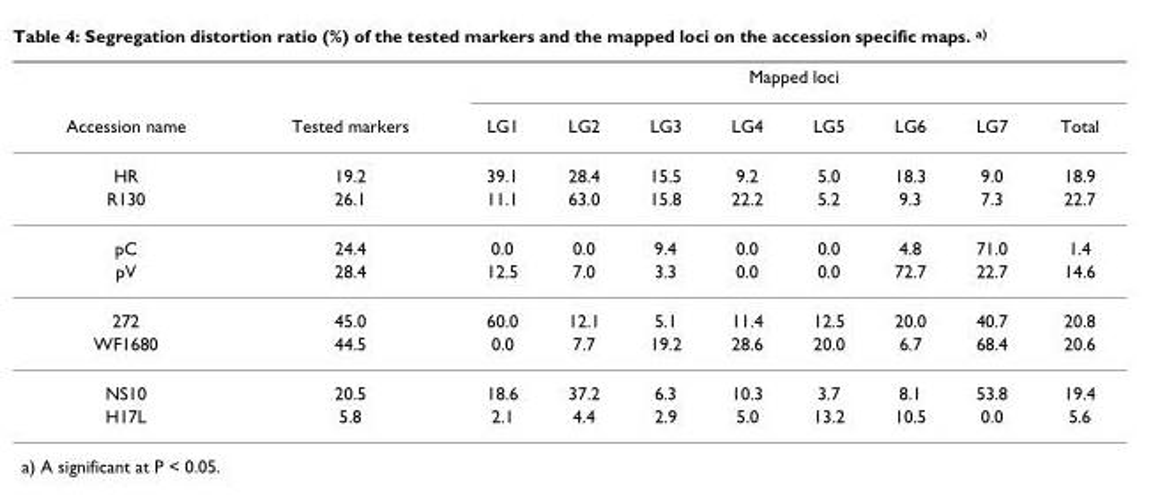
<table><thead><tr><td rowspan="2">Accession name</td><td rowspan="2">Tested markers</td><td colspan="8">Mapped loci</td></tr><tr><td>LG1</td><td>LG2</td><td>LG3</td><td>LG4</td><td>LG5</td><td>LG6</td><td>LG7</td><td>Total</td></tr></thead><tbody><tr><td>HR</td><td>19.2</td><td>39.1</td><td>28.4</td><td>15.5</td><td>9.2</td><td>5.0</td><td>18.3</td><td>9.0</td><td>18.9</td></tr><tr><td>R130</td><td>26.1</td><td>11.1</td><td>63.0</td><td>15.8</td><td>22.2</td><td>5.2</td><td>9.3</td><td>7.3</td><td>22.7</td></tr><tr><td>pC</td><td>24.4</td><td>0.0</td><td>0.0</td><td>9.4</td><td>0.0</td><td>0.0</td><td>4.8</td><td>71.0</td><td>1.4</td></tr><tr><td>pV</td><td>28.4</td><td>12.5</td><td>7.0</td><td>3.3</td><td>0.0</td><td>0.0</td><td>72.7</td><td>22.7</td><td>14.6</td></tr><tr><td>272</td><td>45.0</td><td>60.0</td><td>12.1</td><td>5.1</td><td>11.4</td><td>12.5</td><td>20.0</td><td>40.7</td><td>20.8</td></tr><tr><td>WF1680</td><td>44.5</td><td>0.0</td><td>7.7</td><td>19.2</td><td>28.6</td><td>20.0</td><td>6.7</td><td>68.4</td><td>20.6</td></tr><tr><td>NS10</td><td>20.5</td><td>18.6</td><td>37.2</td><td>6.3</td><td>10.3</td><td>3.7</td><td>8.1</td><td>53.8</td><td>19.4</td></tr><tr><td>H17L</td><td>5.8</td><td>2.1</td><td>4.4</td><td>2.9</td><td>5.0</td><td>13.2</td><td>10.5</td><td>0.0</td><td>5.6</td></tr></tbody></table>